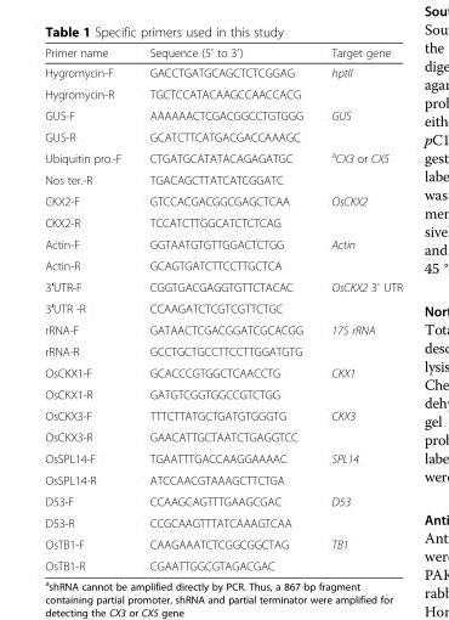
<table><thead><tr><td>Primer name</td><td>Sequence (5′ to 3′)</td><td>Target gene</td></tr></thead><tbody><tr><td>Hygromycin-F</td><td>GACCTGATGCAGCTCTCGGAG</td><td rowspan="2">hptII</td></tr><tr><td>Hygromycin-R</td><td>TGCTCCATACAAGCCAACCACG</td></tr><tr><td>GUS-F</td><td>AAAAAACTCGACGGCCTGTGGG</td><td rowspan="2">GUS</td></tr><tr><td>GUS-R</td><td>GCATCTTCATGACGACCAAAGC</td></tr><tr><td>Ubiquitin pro.-F</td><td>CTGATGCATATACAGAGATGC</td><td rowspan="2"><sup>a</sup>CX3 or CX5</td></tr><tr><td>Nos ter.-R</td><td>TGACAGCTTATCATCGGATC</td></tr><tr><td>CKX2-F</td><td>GTCCACGACGGCGAGCTCAA</td><td rowspan="2">OsCKX2</td></tr><tr><td>CKX2-R</td><td>TCCATCTTGGCATCTCTCAG</td></tr><tr><td>Actin-F</td><td>GGTAATGTGTTGGACTCTGG</td><td rowspan="2">Actin</td></tr><tr><td>Actin-R</td><td>GCAGTGATCTTCCTTGCTCA</td></tr><tr><td>3′UTR-F</td><td>CGGTGACGAGGTGTTCTACAC</td><td rowspan="2">OsCKX2 3′ UTR</td></tr><tr><td>3′UTR -R</td><td>CCAAGATCTCGTCGTTCTGC</td></tr><tr><td>rRNA-F</td><td>GATAACTCGACGGATCGCACGG</td><td rowspan="2">17S rRNA</td></tr><tr><td>rRNA-R</td><td>GCCTGCTGCCTTCCTTGGATGTG</td></tr><tr><td>OsCKX1-F</td><td>GCACCCGTGGCTCAACCTG</td><td rowspan="2">CKX1</td></tr><tr><td>OsCKX1-R</td><td>GATGTCGGTGGCCGTCTGG</td></tr><tr><td>OsCKX3-F</td><td>TTTCTTATGCTGATGTGGGTG</td><td rowspan="2">CKX3</td></tr><tr><td>OsCKX3-R</td><td>GAACATTGCTAATCTGAGGTCC</td></tr><tr><td>OsSPL14-F</td><td>TGAATTTGACCAAGGAAAAC</td><td rowspan="2">SPL14</td></tr><tr><td>OsSPL14-R</td><td>ATCCAACGTAAAGCTTCTGA</td></tr><tr><td>D53-F</td><td>CCAAGCAGTTTGAAGCGAC</td><td rowspan="2">D53</td></tr><tr><td>D53-R</td><td>CCGCAAGTTTATCAAAGTCAA</td></tr><tr><td>OsTB1-F</td><td>CAAGAAATCTCGGCGGCTAG</td><td rowspan="2">TB1</td></tr><tr><td>OsTB1-R</td><td>CGAATTGGCGTAGACGAC</td></tr></tbody></table>